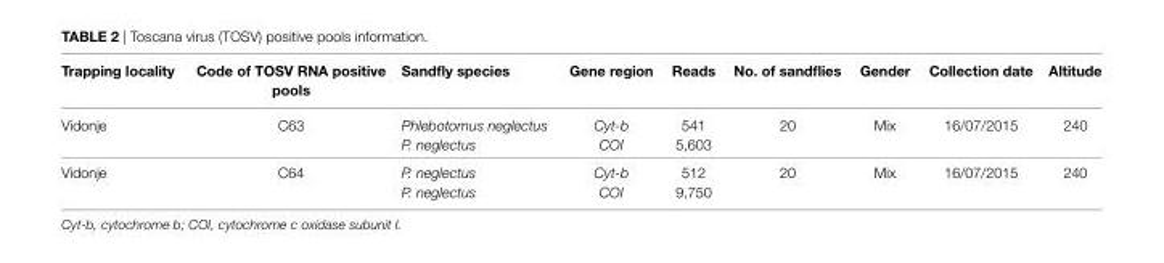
<table><thead><tr><td>trapping locality</td><td>Code of toSV RNa positive pools</td><td>Sandfly species</td><td>gene region</td><td>Reads</td><td>No. of sandflies</td><td>gender</td><td>Collection date</td><td>altitude</td></tr></thead><tbody><tr><td rowspan="2">Vidonje</td><td>C63</td><td>Phlebotomus neglectus</td><td>Cyt-b</td><td>541</td><td>20</td><td>Mix</td><td>16/07/2015</td><td>240</td></tr><tr><td></td><td>P. neglectus</td><td>COI</td><td>5,603</td><td></td><td></td><td></td><td></td></tr><tr><td rowspan="2">Vidonje</td><td>C64</td><td>P. neglectus</td><td>Cyt-b</td><td>512</td><td>20</td><td>Mix</td><td>16/07/2015</td><td>240</td></tr><tr><td></td><td>P. neglectus</td><td>COI</td><td>9,750</td><td></td><td></td><td></td><td></td></tr></tbody></table>